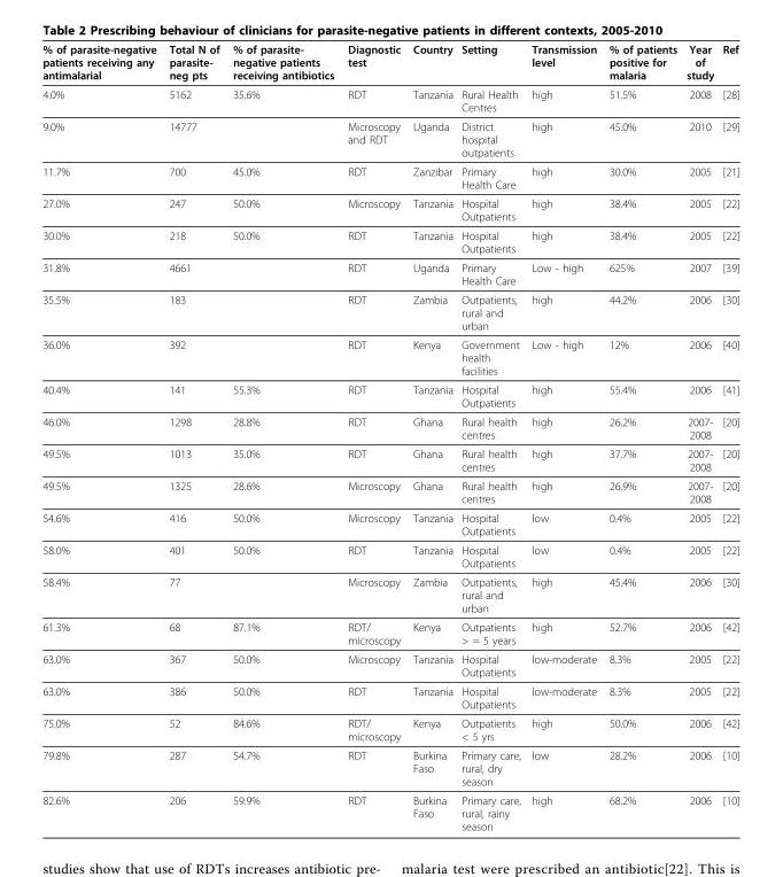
<table><thead><tr><td>% of parasite-negative patients receiving any antimalarial</td><td>Total N of parasite- neg pts</td><td>% of parasite- negative patients receiving antibiotics</td><td>Diagnostic test</td><td>Country</td><td>Setting</td><td>Transmission level</td><td>% of patients positive for malaria</td><td>Year of study</td><td>Ref</td></tr></thead><tbody><tr><td>4.0%</td><td>5162</td><td>35.6%</td><td>RDT</td><td>Tanzania</td><td>Rural Health Centres</td><td>high</td><td>51.5%</td><td>2008</td><td>[28]</td></tr><tr><td>9.0%</td><td>14777</td><td></td><td>Microscopy and RDT</td><td>Uganda</td><td>District hospital outpatients</td><td>high</td><td>45.0%</td><td>2010</td><td>[29]</td></tr><tr><td>11.7%</td><td>700</td><td>45.0%</td><td>RDT</td><td>Zanzibar</td><td>Primary Health Care</td><td>high</td><td>30.0%</td><td>2005</td><td>[21]</td></tr><tr><td>27.0%</td><td>247</td><td>50.0%</td><td>Microscopy</td><td>Tanzania</td><td>Hospital Outpatients</td><td>high</td><td>38.4%</td><td>2005</td><td>[22]</td></tr><tr><td>30.0%</td><td>218</td><td>50.0%</td><td>RDT</td><td>Tanzania</td><td>Hospital Outpatients</td><td>high</td><td>38.4%</td><td>2005</td><td>[22]</td></tr><tr><td>31.8%</td><td>4661</td><td></td><td>RDT</td><td>Uganda</td><td>Primary Health Care</td><td>Low - high</td><td>625%</td><td>2007</td><td>[39]</td></tr><tr><td>35.5%</td><td>183</td><td></td><td>RDT</td><td>Zambia</td><td>Outpatients, rural and urban</td><td>high</td><td>44.2%</td><td>2006</td><td>[30]</td></tr><tr><td>36.0%</td><td>392</td><td></td><td>RDT</td><td>Kenya</td><td>Government health facilities</td><td>Low - high</td><td>12%</td><td>2006</td><td>[40]</td></tr><tr><td>40.4%</td><td>141</td><td>55.3%</td><td>RDT</td><td>Tanzania</td><td>Hospital Outpatients</td><td>high</td><td>55.4%</td><td>2006</td><td>[41]</td></tr><tr><td>46.0%</td><td>1298</td><td>28.8%</td><td>RDT</td><td>Ghana</td><td>Rural health centres</td><td>high</td><td>26.2%</td><td>2007- 2008</td><td>[20]</td></tr><tr><td>49.5%</td><td>1013</td><td>35.0%</td><td>RDT</td><td>Ghana</td><td>Rural health centres</td><td>high</td><td>37.7%</td><td>2007- 2008</td><td>[20]</td></tr><tr><td>49.5%</td><td>1325</td><td>28.6%</td><td>Microscopy</td><td>Ghana</td><td>Rural health centres</td><td>high</td><td>26.9%</td><td>2007- 2008</td><td>[20]</td></tr><tr><td>54.6%</td><td>416</td><td>50.0%</td><td>Microscopy</td><td>Tanzania</td><td>Hospital Outpatients</td><td>low</td><td>0.4%</td><td>2005</td><td>[22]</td></tr><tr><td>58.0%</td><td>401</td><td>50.0%</td><td>RDT</td><td>Tanzania</td><td>Hospital Outpatients</td><td>low</td><td>0.4%</td><td>2005</td><td>[22]</td></tr><tr><td>58.4%</td><td>77</td><td></td><td>Microscopy</td><td>Zambia</td><td>Outpatients, rural and urban</td><td>high</td><td>45.4%</td><td>2006</td><td>[30]</td></tr><tr><td>61.3%</td><td>68</td><td>87.1%</td><td>RDT/ microscopy</td><td>Kenya</td><td>Outpatients &gt; = 5 years</td><td>high</td><td>52.7%</td><td>2006</td><td>[42]</td></tr><tr><td>63.0%</td><td>367</td><td>50.0%</td><td>Microscopy</td><td>Tanzania</td><td>Hospital Outpatients</td><td>low-moderate</td><td>8.3%</td><td>2005</td><td>[22]</td></tr><tr><td>63.0%</td><td>386</td><td>50.0%</td><td>RDT</td><td>Tanzania</td><td>Hospital Outpatients</td><td>low-moderate</td><td>8.3%</td><td>2005</td><td>[22]</td></tr><tr><td>75.0%</td><td>52</td><td>84.6%</td><td>RDT/ microscopy</td><td>Kenya</td><td>Outpatients &lt; 5 yrs</td><td>high</td><td>50.0%</td><td>2006</td><td>[42]</td></tr><tr><td>79.8%</td><td>287</td><td>54.7%</td><td>RDT</td><td>Burkina Faso</td><td>Primary care, rural, dry season</td><td>low</td><td>28.2%</td><td>2006</td><td>[10]</td></tr><tr><td>82.6%</td><td>206</td><td>59.9%</td><td>RDT</td><td>Burkina Faso</td><td>Primary care, rural, rainy season</td><td>high</td><td>68.2%</td><td>2006</td><td>[10]</td></tr></tbody></table>